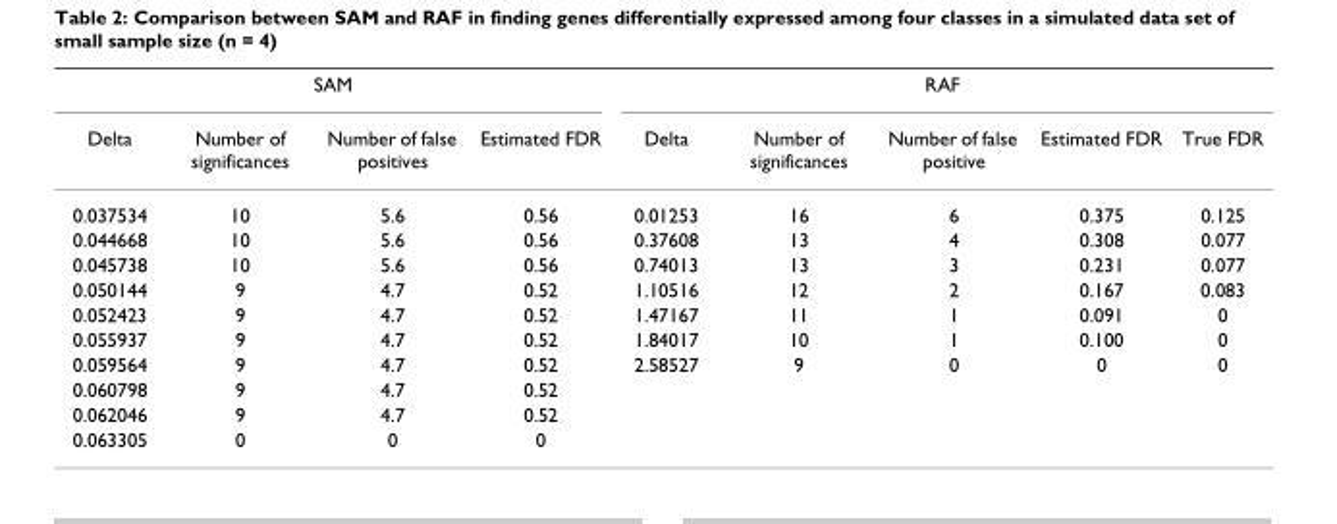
<table><thead><tr><td colspan="4">SAM</td><td colspan="5">RAF</td></tr><tr><td>Delta</td><td>Number of significances</td><td>Number of false positives</td><td>Estimated FDR</td><td>Delta</td><td>Number of significances</td><td>Number of false positive</td><td>Estimated FDR</td><td>True FDR</td></tr></thead><tbody><tr><td>0.037534</td><td>10</td><td>5.6</td><td>0.56</td><td>0.01253</td><td>16</td><td>6</td><td>0.375</td><td>0.125</td></tr><tr><td>0.044668</td><td>10</td><td>5.6</td><td>0.56</td><td>0.37608</td><td>13</td><td>4</td><td>0.308</td><td>0.077</td></tr><tr><td>0.045738</td><td>10</td><td>5.6</td><td>0.56</td><td>0.74013</td><td>13</td><td>3</td><td>0.231</td><td>0.077</td></tr><tr><td>0.050144</td><td>9</td><td>4.7</td><td>0.52</td><td>1.10516</td><td>12</td><td>2</td><td>0.167</td><td>0.083</td></tr><tr><td>0.052423</td><td>9</td><td>4.7</td><td>0.52</td><td>1.47167</td><td>11</td><td>1</td><td>0.091</td><td>0</td></tr><tr><td>0.055937</td><td>9</td><td>4.7</td><td>0.52</td><td>1.84017</td><td>10</td><td>1</td><td>0.100</td><td>0</td></tr><tr><td>0.059564</td><td>9</td><td>4.7</td><td>0.52</td><td>2.58527</td><td>9</td><td>0</td><td>0</td><td>0</td></tr><tr><td>0.060798</td><td>9</td><td>4.7</td><td>0.52</td><td></td><td></td><td></td><td></td><td></td></tr><tr><td>0.062046</td><td>9</td><td>4.7</td><td>0.52</td><td></td><td></td><td></td><td></td><td></td></tr><tr><td>0.063305</td><td>0</td><td>0</td><td>0</td><td></td><td></td><td></td><td></td><td></td></tr></tbody></table>